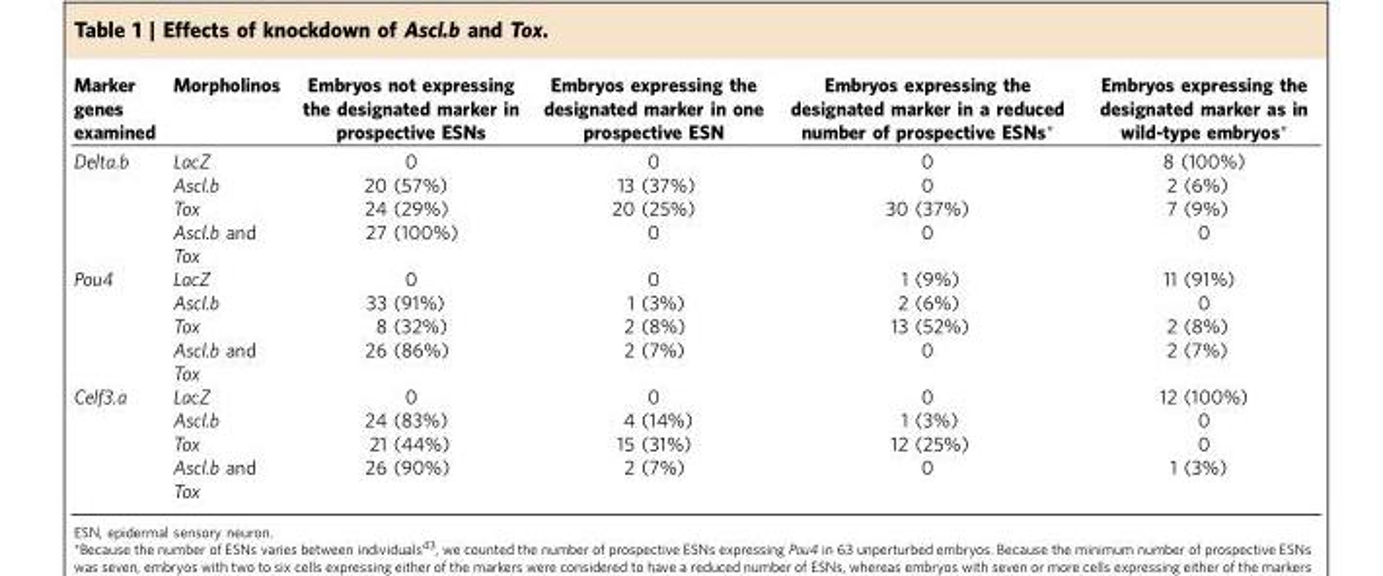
<table><thead><tr><td>Marker genes examined</td><td>Morpholinos</td><td>Embryos not expressing the designated marker in prospective ESNs</td><td>Embryos expressing the designated marker in one prospective ESN</td><td>Embryos expressing the designated marker in a reduced number of prospective ESNs*</td><td>Embryos expressing the designated marker as in wild-type embryos*</td></tr></thead><tbody><tr><td rowspan="4">Delta.b</td><td>LacZ</td><td>0</td><td>0</td><td>0</td><td>8 (100%)</td></tr><tr><td>Ascl.b</td><td>20 (57%)</td><td>13 (37%)</td><td>0</td><td>2 (6%)</td></tr><tr><td>Tox</td><td>24 (29%)</td><td>20 (25%)</td><td>30 (37%)</td><td>7 (9%)</td></tr><tr><td>Ascl.b and Tox</td><td>27 (100%)</td><td>0</td><td>0</td><td>0</td></tr><tr><td rowspan="4">Pou4</td><td>LacZ</td><td>0</td><td>0</td><td>1 (9%)</td><td>11 (91%)</td></tr><tr><td>Ascl.b</td><td>33 (91%)</td><td>1 (3%)</td><td>2 (6%)</td><td>0</td></tr><tr><td>Tox</td><td>8 (32%)</td><td>2 (8%)</td><td>13 (52%)</td><td>2 (8%)</td></tr><tr><td>Ascl.b and Tox</td><td>26 (86%)</td><td>2 (7%)</td><td>0</td><td>2 (7%)</td></tr><tr><td rowspan="4">Celf3.a</td><td>LacZ</td><td>0</td><td>0</td><td>0</td><td>12 (100%)</td></tr><tr><td>Ascl.b</td><td>24 (83%)</td><td>4 (14%)</td><td>1 (3%)</td><td>0</td></tr><tr><td>Tox</td><td>21 (44%)</td><td>15 (31%)</td><td>12 (25%)</td><td>0</td></tr><tr><td>Ascl.b and Tox</td><td>26 (90%)</td><td>2 (7%)</td><td>0</td><td>1 (3%)</td></tr></tbody></table>